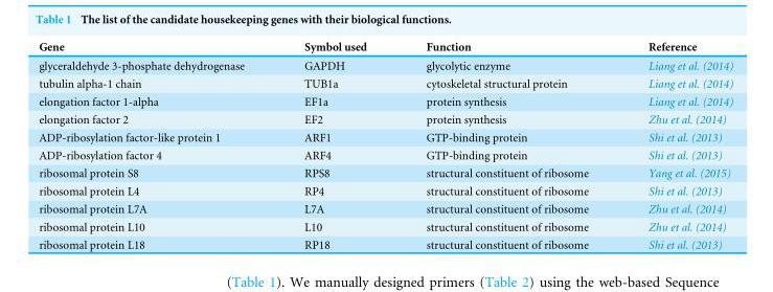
<table><thead><tr><td>Gene</td><td>Symbol used</td><td>Function</td><td>Reference</td></tr></thead><tbody><tr><td>glyceraldehyde 3-phosphate dehydrogenase</td><td>GAPDH</td><td>glycolytic enzyme</td><td>Liang et al. (2014)</td></tr><tr><td>tubulin alpha-1 chain</td><td>TUB1a</td><td>cytoskeletal structural protein</td><td>Liang et al. (2014)</td></tr><tr><td>elongation factor 1-alpha</td><td>EF1a</td><td>protein synthesis</td><td>Liang et al. (2014)</td></tr><tr><td>elongation factor 2</td><td>EF2</td><td>protein synthesis</td><td>Zhu et al. (2014)</td></tr><tr><td>ADP-ribosylation factor-like protein 1</td><td>ARF1</td><td>GTP-binding protein</td><td>Shi et al. (2013)</td></tr><tr><td>ADP-ribosylation factor 4</td><td>ARF4</td><td>GTP-binding protein</td><td>Shi et al. (2013)</td></tr><tr><td>ribosomal protein S8</td><td>RPS8</td><td>structural constituent of ribosome</td><td>Yang et al. (2015)</td></tr><tr><td>ribosomal protein L4</td><td>RP4</td><td>structural constituent of ribosome</td><td>Shi et al. (2013)</td></tr><tr><td>ribosomal protein L7A</td><td>L7A</td><td>structural constituent of ribosome</td><td>Zhu et al. (2014)</td></tr><tr><td>ribosomal protein L10</td><td>L10</td><td>structural constituent of ribosome</td><td>Zhu et al. (2014)</td></tr><tr><td>ribosomal protein L18</td><td>RP18</td><td>structural constituent of ribosome</td><td>Shi et al. (2013)</td></tr></tbody></table>